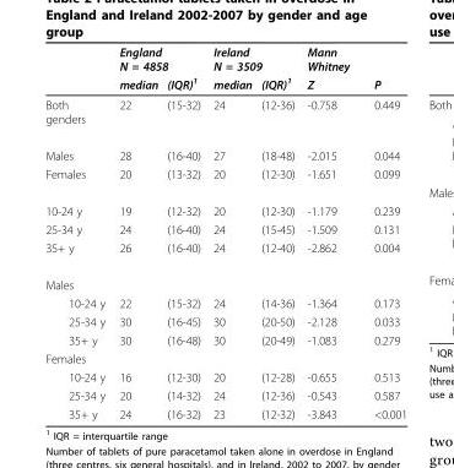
<table><thead><tr><td rowspan="2"></td><td colspan="2">England N = 4858</td><td colspan="2">Ireland N = 3509</td><td rowspan="2">Mann Whitney Z</td><td rowspan="2">P</td></tr><tr><td>median</td><td>(IQR)<sup>1</sup></td><td>median</td><td>(IQR)<sup>1</sup></td></tr></thead><tbody><tr><td>Both genders</td><td>22</td><td>(15-32)</td><td>24</td><td>(12-36)</td><td>-0.758</td><td>0.449</td></tr><tr><td>Males</td><td>28</td><td>(16-40)</td><td>27</td><td>(18-48)</td><td>-2.015</td><td>0.044</td></tr><tr><td>Females</td><td>20</td><td>(13-32)</td><td>20</td><td>(12-30)</td><td>-1.651</td><td>0.099</td></tr><tr><td>10-24 y</td><td>19</td><td>(12-32)</td><td>20</td><td>(12-30)</td><td>-1.179</td><td>0.239</td></tr><tr><td>25-34 y</td><td>24</td><td>(16-40)</td><td>24</td><td>(15-45)</td><td>-1.509</td><td>0.131</td></tr><tr><td>35+ y</td><td>26</td><td>(16-40)</td><td>24</td><td>(12-40)</td><td>-2.862</td><td>0.004</td></tr><tr><td colspan="7">Males</td></tr><tr><td>10-24 y</td><td>22</td><td>(15-32)</td><td>24</td><td>(14-36)</td><td>-1.364</td><td>0.173</td></tr><tr><td>25-34 y</td><td>30</td><td>(16-45)</td><td>30</td><td>(20-50)</td><td>-2.128</td><td>0.033</td></tr><tr><td>35+ y</td><td>30</td><td>(16-48)</td><td>30</td><td>(20-49)</td><td>-1.083</td><td>0.279</td></tr><tr><td colspan="7">Females</td></tr><tr><td>10-24 y</td><td>16</td><td>(12-30)</td><td>20</td><td>(12-28)</td><td>-0.655</td><td>0.513</td></tr><tr><td>25-34 y</td><td>20</td><td>(14-32)</td><td>24</td><td>(12-36)</td><td>-0.543</td><td>0.587</td></tr><tr><td>35+ y</td><td>24</td><td>(16-32)</td><td>23</td><td>(12-32)</td><td>-3.843</td><td>&lt;0.001</td></tr></tbody></table>